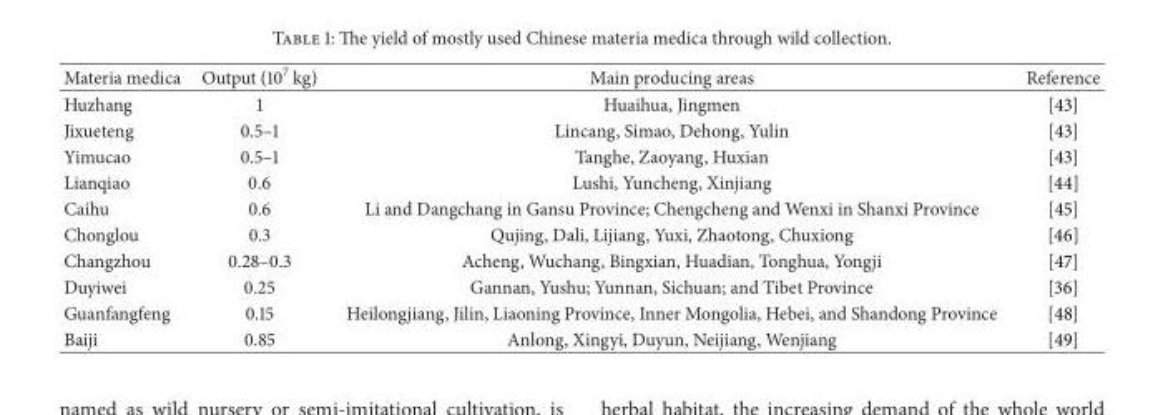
<table><thead><tr><td>Materia medica</td><td>Output (10<sup>7</sup> kg)</td><td>Main producing areas</td><td>Reference</td></tr></thead><tbody><tr><td>Huzhang</td><td>1</td><td>Huaihua, Jingmen</td><td>[43]</td></tr><tr><td>Jixueteng</td><td>0.5–1</td><td>Lincang, Simao, Dehong, Yulin</td><td>[43]</td></tr><tr><td>Yimucao</td><td>0.5–1</td><td>Tanghe, Zaoyang, Huxian</td><td>[43]</td></tr><tr><td>Lianqiao</td><td>0.6</td><td>Lushi, Yuncheng, Xinjiang</td><td>[44]</td></tr><tr><td>Caihu</td><td>0.6</td><td>Li and Dangchang in Gansu Province; Chengcheng and Wenxi in Shanxi Province</td><td>[45]</td></tr><tr><td>Chonglou</td><td>0.3</td><td>Qujing, Dali, Lijiang, Yuxi, Zhaotong, Chuxiong</td><td>[46]</td></tr><tr><td>Changzhou</td><td>0.28–0.3</td><td>Acheng, Wuchang, Bingxian, Huadian, Tonghua, Yongji</td><td>[47]</td></tr><tr><td>Duyiwei</td><td>0.25</td><td>Gannan, Yushu; Yunnan, Sichuan; and Tibet Province</td><td>[36]</td></tr><tr><td>Guanfangfeng</td><td>0.15</td><td>Heilongjiang, Jilin, Liaoning Province, Inner Mongolia, Hebei, and Shandong Province</td><td>[48]</td></tr><tr><td>Baiji</td><td>0.85</td><td>Anlong, Xingyi, Duyun, Neijiang, Wenjiang</td><td>[49]</td></tr></tbody></table>